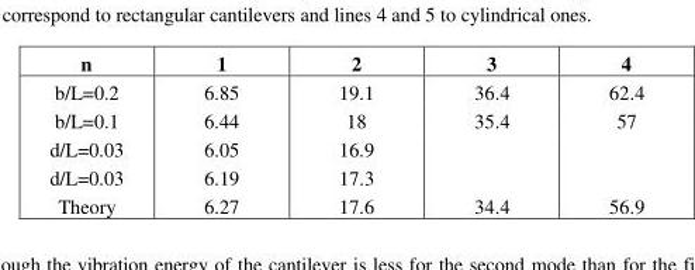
<table><thead><tr><td>n</td><td>1</td><td>2</td><td>3</td><td>4</td></tr></thead><tbody><tr><td>b/L=0.2</td><td>6.85</td><td>19.1</td><td>36.4</td><td>62.4</td></tr><tr><td>b/L=0.1</td><td>6.44</td><td>18</td><td>35.4</td><td>57</td></tr><tr><td>d/L=0.03</td><td>6.05</td><td>16.9</td><td></td><td></td></tr><tr><td>d/L=0.03</td><td>6.19</td><td>17.3</td><td></td><td></td></tr><tr><td>Theory</td><td>6.27</td><td>17.6</td><td>34.4</td><td>56.9</td></tr></tbody></table>